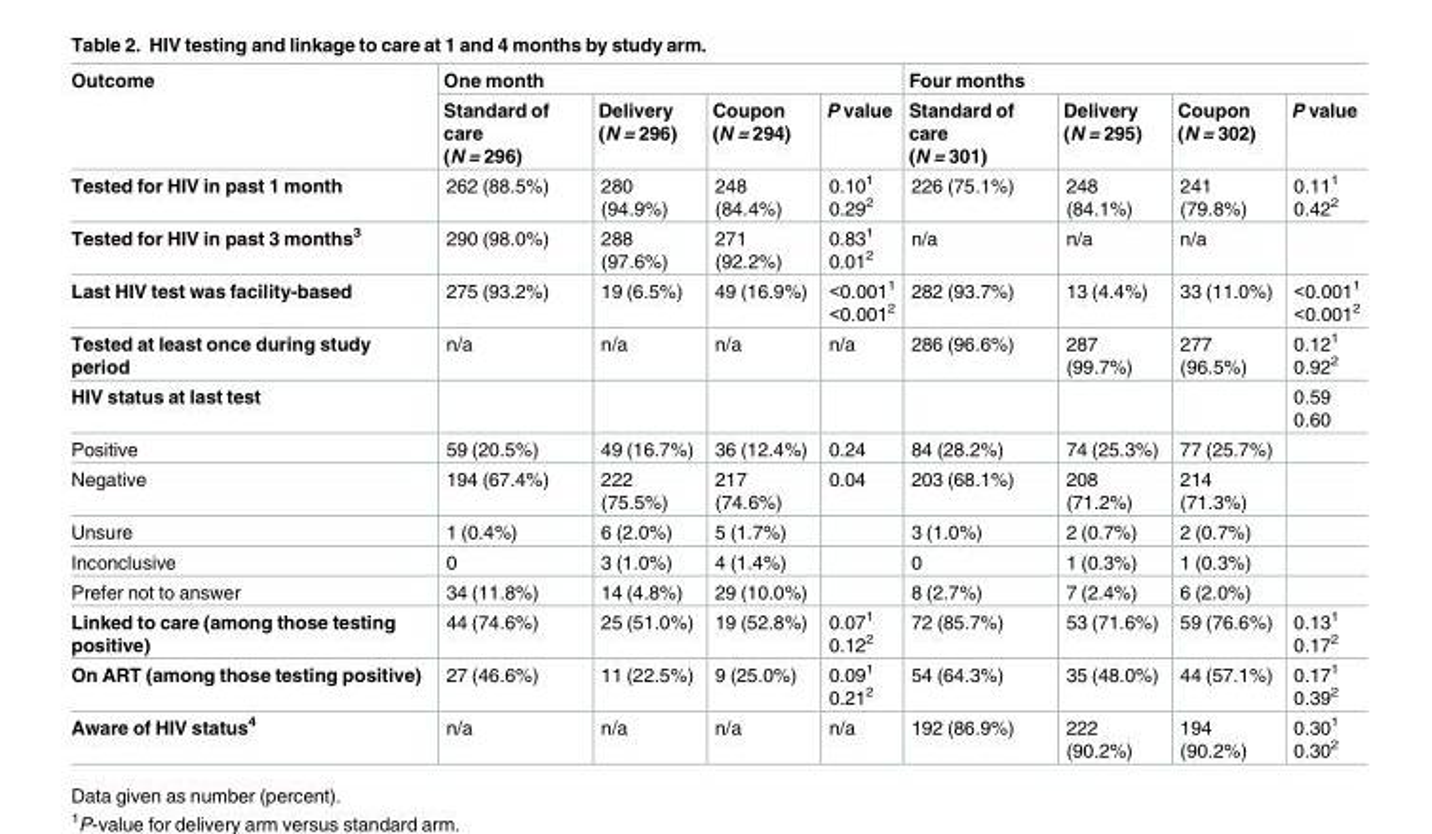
<table><thead><tr><td rowspan="2">Outcome</td><td colspan="4">One month</td><td colspan="4">Four months</td></tr><tr><td>Standard of care (N = 296)</td><td>Delivery (N = 296)</td><td>Coupon (N = 294)</td><td>P value</td><td>Standard of care (N = 301)</td><td>Delivery (N = 295)</td><td>Coupon (N = 302)</td><td>P value</td></tr></thead><tbody><tr><td>Tested for HIV in past 1 month</td><td>262 (88.5%)</td><td>280 (94.9%)</td><td>248 (84.4%)</td><td>0.10<sup>1</sup> 0.29<sup>2</sup></td><td>226 (75.1%)</td><td>248 (84.1%)</td><td>241 (79.8%)</td><td>0.11<sup>1</sup> 0.42<sup>2</sup></td></tr><tr><td>Tested for HIV in past 3 months<sup>3</sup></td><td>290 (98.0%)</td><td>288 (97.6%)</td><td>271 (92.2%)</td><td>0.83<sup>1</sup> 0.01<sup>2</sup></td><td>n/a</td><td>n/a</td><td>n/a</td><td></td></tr><tr><td>Last HIV test was facility-based</td><td>275 (93.2%)</td><td>19 (6.5%)</td><td>49 (16.9%)</td><td>&lt;0.001<sup>1</sup> &lt;0.001<sup>2</sup></td><td>282 (93.7%)</td><td>13 (4.4%)</td><td>33 (11.0%)</td><td>&lt;0.001<sup>1</sup> &lt;0.001<sup>2</sup></td></tr><tr><td>Tested at least once during study period</td><td>n/a</td><td>n/a</td><td>n/a</td><td>n/a</td><td>286 (96.6%)</td><td>287 (99.7%)</td><td>277 (96.5%)</td><td>0.12<sup>1</sup> 0.92<sup>2</sup></td></tr><tr><td>HIV status at last test</td><td></td><td></td><td></td><td></td><td></td><td></td><td></td><td>0.59 0.60</td></tr><tr><td>Positive</td><td>59 (20.5%)</td><td>49 (16.7%)</td><td>36 (12.4%)</td><td>0.24</td><td>84 (28.2%)</td><td>74 (25.3%)</td><td>77 (25.7%)</td><td></td></tr><tr><td>Negative</td><td>194 (67.4%)</td><td>222 (75.5%)</td><td>217 (74.6%)</td><td>0.04</td><td>203 (68.1%)</td><td>208 (71.2%)</td><td>214 (71.3%)</td><td></td></tr><tr><td>Unsure</td><td>1 (0.4%)</td><td>6 (2.0%)</td><td>5 (1.7%)</td><td></td><td>3 (1.0%)</td><td>2 (0.7%)</td><td>2 (0.7%)</td><td></td></tr><tr><td>Inconclusive</td><td>0</td><td>3 (1.0%)</td><td>4 (1.4%)</td><td></td><td>0</td><td>1 (0.3%)</td><td>1 (0.3%)</td><td></td></tr><tr><td>Prefer not to answer</td><td>34 (11.8%)</td><td>14 (4.8%)</td><td>29 (10.0%)</td><td></td><td>8 (2.7%)</td><td>7 (2.4%)</td><td>6 (2.0%)</td><td></td></tr><tr><td>Linked to care (among those testing positive)</td><td>44 (74.6%)</td><td>25 (51.0%)</td><td>19 (52.8%)</td><td>0.07<sup>1</sup> 0.12<sup>2</sup></td><td>72 (85.7%)</td><td>53 (71.6%)</td><td>59 (76.6%)</td><td>0.13<sup>1</sup> 0.17<sup>2</sup></td></tr><tr><td>On ART (among those testing positive)</td><td>27 (46.6%)</td><td>11 (22.5%)</td><td>9 (25.0%)</td><td>0.09<sup>1</sup> 0.21<sup>2</sup></td><td>54 (64.3%)</td><td>35 (48.0%)</td><td>44 (57.1%)</td><td>0.17<sup>1</sup> 0.39<sup>2</sup></td></tr><tr><td>Aware of HIV status<sup>4</sup></td><td>n/a</td><td>n/a</td><td>n/a</td><td>n/a</td><td>192 (86.9%)</td><td>222 (90.2%)</td><td>194 (90.2%)</td><td>0.30<sup>1</sup> 0.30<sup>2</sup></td></tr></tbody></table>